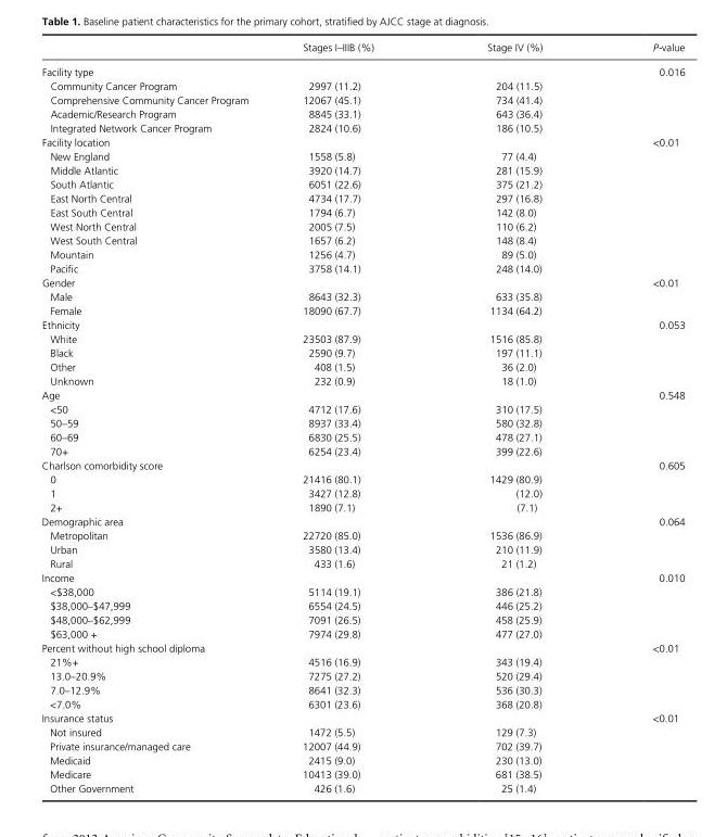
<table><thead><tr><td></td><td>Stages I–IIIB (%)</td><td>Stage IV (%)</td><td>P-value</td></tr></thead><tbody><tr><td colspan="3">Facility type</td><td>0.016</td></tr><tr><td>Community Cancer Program</td><td>2997 (11.2)</td><td>204 (11.5)</td><td></td></tr><tr><td>Comprehensive Community Cancer Program</td><td>12067 (45.1)</td><td>734 (41.4)</td><td></td></tr><tr><td>Academic/Research Program</td><td>8845 (33.1)</td><td>643 (36.4)</td><td></td></tr><tr><td>Integrated Network Cancer Program</td><td>2824 (10.6)</td><td>186 (10.5)</td><td></td></tr><tr><td colspan="3">Facility location</td><td>&lt;0.01</td></tr><tr><td>New England</td><td>1558 (5.8)</td><td>77 (4.4)</td><td></td></tr><tr><td>Middle Atlantic</td><td>3920 (14.7)</td><td>281 (15.9)</td><td></td></tr><tr><td>South Atlantic</td><td>6051 (22.6)</td><td>375 (21.2)</td><td></td></tr><tr><td>East North Central</td><td>4734 (17.7)</td><td>297 (16.8)</td><td></td></tr><tr><td>East South Central</td><td>1794 (6.7)</td><td>142 (8.0)</td><td></td></tr><tr><td>West North Central</td><td>2005 (7.5)</td><td>110 (6.2)</td><td></td></tr><tr><td>West South Central</td><td>1657 (6.2)</td><td>148 (8.4)</td><td></td></tr><tr><td>Mountain</td><td>1256 (4.7)</td><td>89 (5.0)</td><td></td></tr><tr><td>Pacific</td><td>3758 (14.1)</td><td>248 (14.0)</td><td></td></tr><tr><td colspan="3">Gender</td><td>&lt;0.01</td></tr><tr><td>Male</td><td>8643 (32.3)</td><td>633 (35.8)</td><td></td></tr><tr><td>Female</td><td>18090 (67.7)</td><td>1134 (64.2)</td><td></td></tr><tr><td colspan="3">Ethnicity</td><td>0.053</td></tr><tr><td>White</td><td>23503 (87.9)</td><td>1516 (85.8)</td><td></td></tr><tr><td>Black</td><td>2590 (9.7)</td><td>197 (11.1)</td><td></td></tr><tr><td>Other</td><td>408 (1.5)</td><td>36 (2.0)</td><td></td></tr><tr><td>Unknown</td><td>232 (0.9)</td><td>18 (1.0)</td><td></td></tr><tr><td colspan="3">Age</td><td>0.548</td></tr><tr><td>&lt;50</td><td>4712 (17.6)</td><td>310 (17.5)</td><td></td></tr><tr><td>50–59</td><td>8937 (33.4)</td><td>580 (32.8)</td><td></td></tr><tr><td>60–69</td><td>6830 (25.5)</td><td>478 (27.1)</td><td></td></tr><tr><td>70+</td><td>6254 (23.4)</td><td>399 (22.6)</td><td></td></tr><tr><td colspan="3">Charlson comorbidity score</td><td>0.605</td></tr><tr><td>0</td><td>21416 (80.1)</td><td>1429 (80.9)</td><td></td></tr><tr><td>1</td><td>3427 (12.8)</td><td>(12.0)</td><td></td></tr><tr><td>2+</td><td>1890 (7.1)</td><td>(7.1)</td><td></td></tr><tr><td colspan="3">Demographic area</td><td>0.064</td></tr><tr><td>Metropolitan</td><td>22720 (85.0)</td><td>1536 (86.9)</td><td></td></tr><tr><td>Urban</td><td>3580 (13.4)</td><td>210 (11.9)</td><td></td></tr><tr><td>Rural</td><td>433 (1.6)</td><td>21 (1.2)</td><td></td></tr><tr><td colspan="3">Income</td><td>0.010</td></tr><tr><td>&lt;$38,000</td><td>5114 (19.1)</td><td>386 (21.8)</td><td></td></tr><tr><td>$38,000–$47,999</td><td>6554 (24.5)</td><td>446 (25.2)</td><td></td></tr><tr><td>$48,000–$62,999</td><td>7091 (26.5)</td><td>458 (25.9)</td><td></td></tr><tr><td>$63,000 +</td><td>7974 (29.8)</td><td>477 (27.0)</td><td></td></tr><tr><td colspan="3">Percent without high school diploma</td><td>&lt;0.01</td></tr><tr><td>21%+</td><td>4516 (16.9)</td><td>343 (19.4)</td><td></td></tr><tr><td>13.0–20.9%</td><td>7275 (27.2)</td><td>520 (29.4)</td><td></td></tr><tr><td>7.0–12.9%</td><td>8641 (32.3)</td><td>536 (30.3)</td><td></td></tr><tr><td>&lt;7.0%</td><td>6301 (23.6)</td><td>368 (20.8)</td><td></td></tr><tr><td colspan="3">Insurance status</td><td>&lt;0.01</td></tr><tr><td>Not insured</td><td>1472 (5.5)</td><td>129 (7.3)</td><td></td></tr><tr><td>Private insurance/managed care</td><td>12007 (44.9)</td><td>702 (39.7)</td><td></td></tr><tr><td>Medicaid</td><td>2415 (9.0)</td><td>230 (13.0)</td><td></td></tr><tr><td>Medicare</td><td>10413 (39.0)</td><td>681 (38.5)</td><td></td></tr><tr><td>Other Government</td><td>426 (1.6)</td><td>25 (1.4)</td><td></td></tr></tbody></table>